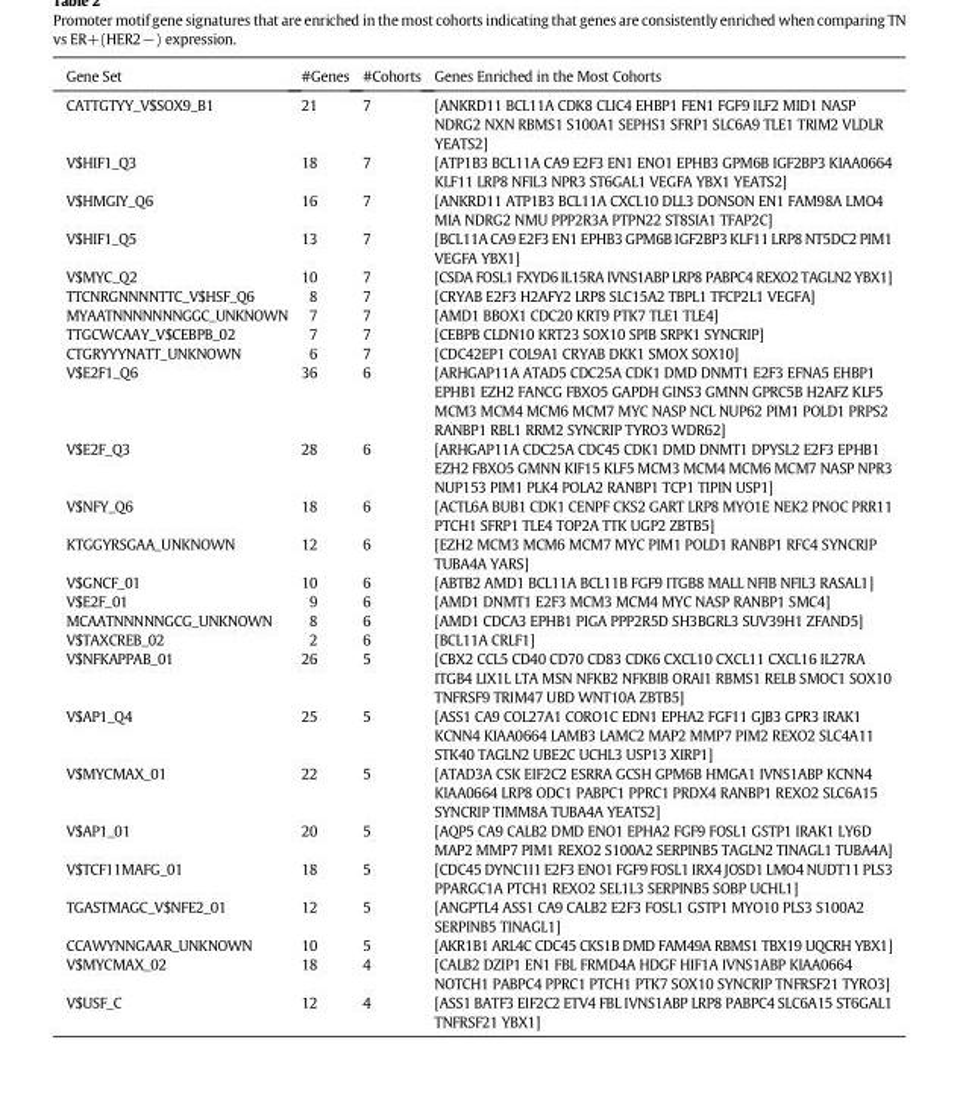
<table><thead><tr><td>Gene Set</td><td>#Genes</td><td>#Cohorts</td><td>Genes Enriched in the Most Cohorts</td></tr></thead><tbody><tr><td>CATTGTYY_V$SOX9_B1</td><td>21</td><td>7</td><td>[ANKRD11 BCL11A CDK8 CLIC4 EHBP1 FEN1 FGF9 ILF2 MID1 NASP NDRG2 NXN RBMS1 S100A1 SEPHS1 SFRP1 SLC6A9 TLE1 TRIM2 VLDLR YEATS2]</td></tr><tr><td>V$HIF1_Q3</td><td>18</td><td>7</td><td>[ATP1B3 BCL11A CA9 E2F3 EN1 ENO1 EPHB3 GPM6B IGF2BP3 KIAA0664 KLF11 LRP8 NFIL3 NPR3 ST6GAL1 VEGFA YBX1 YEATS2]</td></tr><tr><td>V$HMGIY_Q6</td><td>16</td><td>7</td><td>[ANKRD11 ATP1B3 BCL11A CXCL10 DLL3 DONSON EN1 FAM98A LMO4 MIA NDRG2 NMU PPP2R3A PTPN22 ST8SIA1 TFAP2C]</td></tr><tr><td>V$HIF1_Q5</td><td>13</td><td>7</td><td>[BCL11A CA9 E2F3 EN1 EPHB3 GPM6B IGF2BP3 KLF11 LRP8 NT5DC2 PIM1 VEGFA YBX1]</td></tr><tr><td>V$MYC_Q2</td><td>10</td><td>7</td><td>[CSDA FOSL1 FXYD6 IL15RA IVNS1ABP LRP8 PABPC4 REXO2 TAGLN2 YBX1]</td></tr><tr><td>TTCNRGNNNNTTC_V$HSF_Q6</td><td>8</td><td>7</td><td>[CRYAB E2F3 H2AFY2 LRP8 SLC15A2 TBPL1 TFCP2L1 VEGFA]</td></tr><tr><td>MYAATNNNNNNNGGC_UNKNOWN</td><td>7</td><td>7</td><td>[AMD1 BBOX1 CDC20 KRT9 PTK7 TLE1 TLE4]</td></tr><tr><td>TTGCWCAAY_V$CEBPB_02</td><td>7</td><td>7</td><td>[CEBPB CLDN10 KRT23 SOX10 SPIB SRPK1 SYNCRIP]</td></tr><tr><td>CTGRYYYNATT_UNKNOWN</td><td>6</td><td>7</td><td>[CDC42EP1 COL9A1 CRYAB DKK1 SMOX SOX10]</td></tr><tr><td>V$E2F1_Q6</td><td>36</td><td>6</td><td>[ARHGAP11A ATAD5 CDC25A CDK1 DMD DNMT1 E2F3 EFNA5 EHBP1 EPHB1 EZH2 FANCG FBXO5 GAPDH GINS3 GMNN GPRC5B H2AFZ KLF5 MCM3 MCM4 MCM6 MCM7 MYC NASP NCL NUP62 PIM1 POLD1 PRPS2 RANBP1 RBL1 RRM2 SYNCRIP TYRO3 WDR62]</td></tr><tr><td>V$E2F_Q3</td><td>28</td><td>6</td><td>[ARHGAP11A CDC25A CDC45 CDK1 DMD DNMT1 DPYSL2 E2F3 EPHB1 EZH2 FBXO5 GMNN KIF15 KLF5 MCM3 MCM4 MCM6 MCM7 NASP NPR3 NUP153 PIM1 PLK4 POLA2 RANBP1 TCP1 TIPIN USP1]</td></tr><tr><td>V$NFY_Q6</td><td>18</td><td>6</td><td>[ACTL6A BUB1 CDK1 CENPF CKS2 GART LRP8 MYO1E NEK2 PNOC PRR11 PTCH1 SFRP1 TLE4 TOP2A TTK UGP2 ZBTB5]</td></tr><tr><td>KTGGYRSGAA_UNKNOWN</td><td>12</td><td>6</td><td>[EZH2 MCM3 MCM6 MCM7 MYC PIM1 POLD1 RANBP1 RFC4 SYNCRIP TUBA4A YARS]</td></tr><tr><td>V$GNCF_01</td><td>10</td><td>6</td><td>[ABTB2 AMD1 BCL11A BCL11B FGF9 ITGB8 MALL NFIB NFIL3 RASAL1]</td></tr><tr><td>V$E2F_01</td><td>9</td><td>6</td><td>[AMD1 DNMT1 E2F3 MCM3 MCM4 MYC NASP RANBP1 SMC4]</td></tr><tr><td>MCAATNNNNNGCG_UNKNOWN</td><td>8</td><td>6</td><td>[AMD1 CDCA3 EPHB1 PIGA PPP2R5D SH3BGRL3 SUV39H1 ZFAND5]</td></tr><tr><td>V$TAXCREB_02</td><td>2</td><td>6</td><td>[BCL11A CRLF1]</td></tr><tr><td>V$NFKAPPAB_01</td><td>26</td><td>5</td><td>[CBX2 CCL5 CD40 CD70 CD83 CDK6 CXCL10 CXCL11 CXCL16 IL27RA ITGB4 LIX1L LTA MSN NFKB2 NFKBIB ORAI1 RBMS1 RELB SMOC1 SOX10 TNFRSF9 TRIM47 UBD WNT10A ZBTB5]</td></tr><tr><td>V$AP1_Q4</td><td>25</td><td>5</td><td>[ASS1 CA9 COL27A1 CORO1C EDN1 EPHA2 FGF11 GJB3 GPR3 IRAK1 KCNN4 KIAA0664 LAMB3 LAMC2 MAP2 MMP7 PIM2 REXO2 SLC4A11 STK40 TAGLN2 UBE2C UCHL3 USP13 XIRP1]</td></tr><tr><td>V$MYCMAX_01</td><td>22</td><td>5</td><td>[ATAD3A CSK EIF2C2 ESRRA GCSH GPM6B HMGA1 IVNS1ABP KCNN4 KIAA0664 LRP8 ODC1 PABPC1 PPRC1 PRDX4 RANBP1 REXO2 SLC6A15 SYNCRIP TIMM8A TUBA4A YEATS2]</td></tr><tr><td>V$AP1_01</td><td>20</td><td>5</td><td>[AQP5 CA9 CALB2 DMD ENO1 EPHA2 FGF9 FOSL1 GSTP1 IRAK1 LY6D MAP2 MMP7 PIM1 REXO2 S100A2 SERPINB5 TAGLN2 TINAGL1 TUBA4A]</td></tr><tr><td>V$TCF11MAFG_01</td><td>18</td><td>5</td><td>[CDC45 DYNC1I1 E2F3 ENO1 FGF9 FOSL1 IRX4 JOSD1 LMO4 NUDT11 PLS3 PPARGC1A PTCH1 REXO2 SEL1L3 SERPINB5 SOBP UCHL1]</td></tr><tr><td>TGASTMAGC_V$NFE2_01</td><td>12</td><td>5</td><td>[ANGPTL4 ASS1 CA9 CALB2 E2F3 FOSL1 GSTP1 MYO10 PLS3 S100A2 SERPINB5 TINAGL1]</td></tr><tr><td>CCAWYNNGAAR_UNKNOWN</td><td>10</td><td>5</td><td>[AKR1B1 ARL4C CDC45 CKS1B DMD FAM49A RBMS1 TBX19 UQCRH YBX1]</td></tr><tr><td>V$MYCMAX_02</td><td>18</td><td>4</td><td>[CALB2 DZIP1 EN1 FBL FRMD4A HDGF HIF1A IVNS1ABP KIAA0664 NOTCH1 PABPC4 PPRC1 PTCH1 PTK7 SOX10 SYNCRIP TNFRSF21 TYRO3]</td></tr><tr><td>V$USF_C</td><td>12</td><td>4</td><td>[ASS1 BATF3 EIF2C2 ETV4 FBL IVNS1ABP LRP8 PABPC4 SLC6A15 ST6GAL1 TNFRSF21 YBX1]</td></tr></tbody></table>